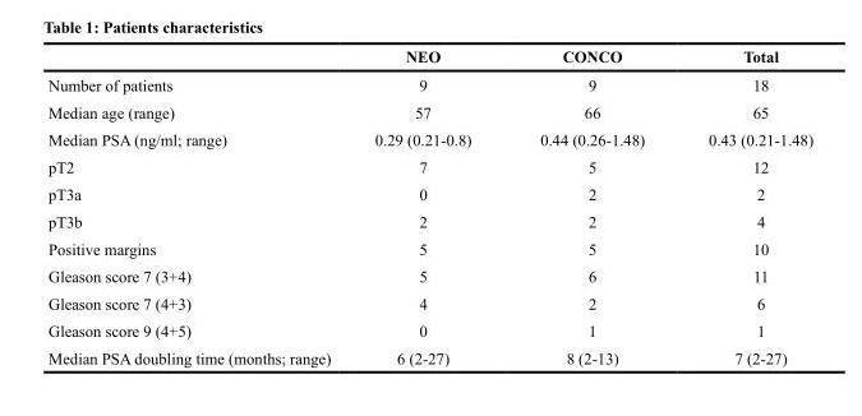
<table><thead><tr><td></td><td>NEO</td><td>CONCO</td><td>Total</td></tr></thead><tbody><tr><td>Number of patients</td><td>9</td><td>9</td><td>18</td></tr><tr><td>Median age (range)</td><td>57</td><td>66</td><td>65</td></tr><tr><td>Median PSA (ng/ml; range)</td><td>0.29 (0.21-0.8)</td><td>0.44 (0.26-1.48)</td><td>0.43 (0.21-1.48)</td></tr><tr><td>pT2</td><td>7</td><td>5</td><td>12</td></tr><tr><td>pT3a</td><td>0</td><td>2</td><td>2</td></tr><tr><td>pT3b</td><td>2</td><td>2</td><td>4</td></tr><tr><td>Positive margins</td><td>5</td><td>5</td><td>10</td></tr><tr><td>Gleason score 7 (3+4)</td><td>5</td><td>6</td><td>11</td></tr><tr><td>Gleason score 7 (4+3)</td><td>4</td><td>2</td><td>6</td></tr><tr><td>Gleason score 9 (4+5)</td><td>0</td><td>1</td><td>1</td></tr><tr><td>Median PSA doubling time (months; range)</td><td>6 (2-27)</td><td>8 (2-13)</td><td>7 (2-27)</td></tr></tbody></table>